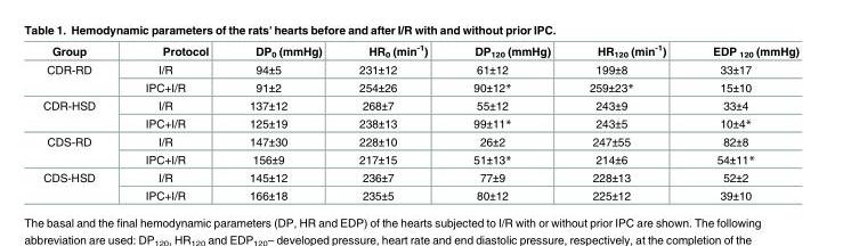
<table><thead><tr><td>Group</td><td>Protocol</td><td>DP<sub>0</sub> (mmHg)</td><td>HR<sub>0</sub> (min<sup>-1</sup>)</td><td>DP<sub>120</sub> (mmHg)</td><td>HR<sub>120</sub> (min<sup>-1</sup>)</td><td>EDP <sub>120</sub> (mmHg)</td></tr></thead><tbody><tr><td rowspan="2">CDR-RD</td><td>I/R</td><td>94±5</td><td>231±12</td><td>61±12</td><td>199±8</td><td>33±17</td></tr><tr><td>IPC+I/R</td><td>91±2</td><td>254±26</td><td>90±12*</td><td>259±23*</td><td>15±10</td></tr><tr><td rowspan="2">CDR-HSD</td><td>I/R</td><td>137±12</td><td>268±7</td><td>55±12</td><td>243±9</td><td>33±4</td></tr><tr><td>IPC+I/R</td><td>125±19</td><td>238±13</td><td>99±11*</td><td>243±5</td><td>10±4*</td></tr><tr><td rowspan="2">CDS-RD</td><td>I/R</td><td>147±30</td><td>228±10</td><td>26±2</td><td>247±55</td><td>82±8</td></tr><tr><td>IPC+I/R</td><td>156±9</td><td>217±15</td><td>51±13*</td><td>214±6</td><td>54±11*</td></tr><tr><td rowspan="2">CDS-HSD</td><td>I/R</td><td>145±12</td><td>236±7</td><td>77±9</td><td>228±13</td><td>52±2</td></tr><tr><td>IPC+I/R</td><td>166±18</td><td>235±5</td><td>80±12</td><td>225±12</td><td>39±10</td></tr></tbody></table>